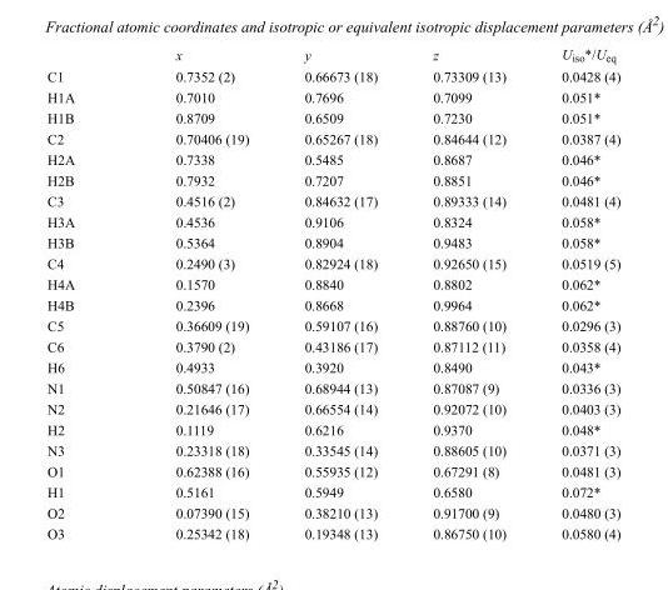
<table><thead><tr><td></td><td>x</td><td>y</td><td>z</td><td>U<sub>iso</sub>*/U<sub>eq</sub></td></tr></thead><tbody><tr><td>C1</td><td>0.7352 (2)</td><td>0.66673 (18)</td><td>0.73309 (13)</td><td>0.0428 (4)</td></tr><tr><td>H1A</td><td>0.7010</td><td>0.7696</td><td>0.7099</td><td>0.051*</td></tr><tr><td>H1B</td><td>0.8709</td><td>0.6509</td><td>0.7230</td><td>0.051*</td></tr><tr><td>C2</td><td>0.70406 (19)</td><td>0.65267 (18)</td><td>0.84644 (12)</td><td>0.0387 (4)</td></tr><tr><td>H2A</td><td>0.7338</td><td>0.5485</td><td>0.8687</td><td>0.046*</td></tr><tr><td>H2B</td><td>0.7932</td><td>0.7207</td><td>0.8851</td><td>0.046*</td></tr><tr><td>C3</td><td>0.4516 (2)</td><td>0.84632 (17)</td><td>0.89333 (14)</td><td>0.0481 (4)</td></tr><tr><td>H3A</td><td>0.4536</td><td>0.9106</td><td>0.8324</td><td>0.058*</td></tr><tr><td>H3B</td><td>0.5364</td><td>0.8904</td><td>0.9483</td><td>0.058*</td></tr><tr><td>C4</td><td>0.2490 (3)</td><td>0.82924 (18)</td><td>0.92650 (15)</td><td>0.0519 (5)</td></tr><tr><td>H4A</td><td>0.1570</td><td>0.8840</td><td>0.8802</td><td>0.062*</td></tr><tr><td>H4B</td><td>0.2396</td><td>0.8668</td><td>0.9964</td><td>0.062*</td></tr><tr><td>C5</td><td>0.36609 (19)</td><td>0.59107 (16)</td><td>0.88760 (10)</td><td>0.0296 (3)</td></tr><tr><td>C6</td><td>0.3790 (2)</td><td>0.43186 (17)</td><td>0.87112 (11)</td><td>0.0358 (4)</td></tr><tr><td>H6</td><td>0.4933</td><td>0.3920</td><td>0.8490</td><td>0.043*</td></tr><tr><td>N1</td><td>0.50847 (16)</td><td>0.68944 (13)</td><td>0.87087 (9)</td><td>0.0336 (3)</td></tr><tr><td>N2</td><td>0.21646 (17)</td><td>0.66554 (14)</td><td>0.92072 (10)</td><td>0.0403 (3)</td></tr><tr><td>H2</td><td>0.1119</td><td>0.6216</td><td>0.9370</td><td>0.048*</td></tr><tr><td>N3</td><td>0.23318 (18)</td><td>0.33545 (14)</td><td>0.88605 (10)</td><td>0.0371 (3)</td></tr><tr><td>O1</td><td>0.62388 (16)</td><td>0.55935 (12)</td><td>0.67291 (8)</td><td>0.0481 (3)</td></tr><tr><td>H1</td><td>0.5161</td><td>0.5949</td><td>0.6580</td><td>0.072*</td></tr><tr><td>O2</td><td>0.07390 (15)</td><td>0.38210 (13)</td><td>0.91700 (9)</td><td>0.0480 (3)</td></tr><tr><td>O3</td><td>0.25342 (18)</td><td>0.19348 (13)</td><td>0.86750 (10)</td><td>0.0580 (4)</td></tr></tbody></table>